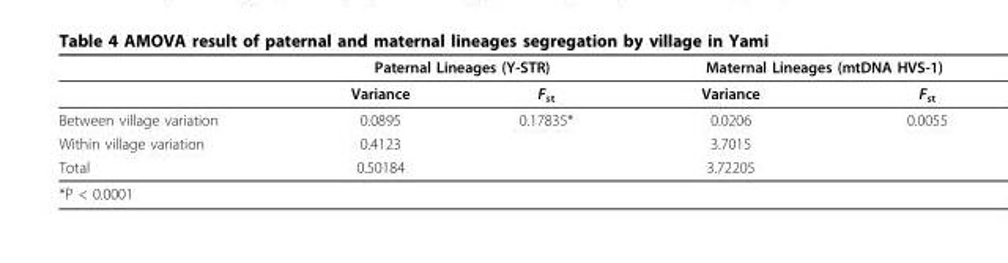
<table><thead><tr><td rowspan="2"></td><td colspan="2">Paternal Lineages (Y-STR)</td><td colspan="2">Maternal Lineages (mtDNA HVS-1)</td></tr><tr><td>Variance</td><td>F<sub>st</sub></td><td>Variance</td><td>F<sub>st</sub></td></tr></thead><tbody><tr><td>Between village variation</td><td>0.0895</td><td>0.17835*</td><td>0.0206</td><td>0.0055</td></tr><tr><td>Within village variation</td><td>0.4123</td><td></td><td>3.7015</td><td></td></tr><tr><td>Total</td><td>0.50184</td><td></td><td>3.72205</td><td></td></tr><tr><td>*P &lt; 0.0001</td><td></td><td></td><td></td><td></td></tr></tbody></table>